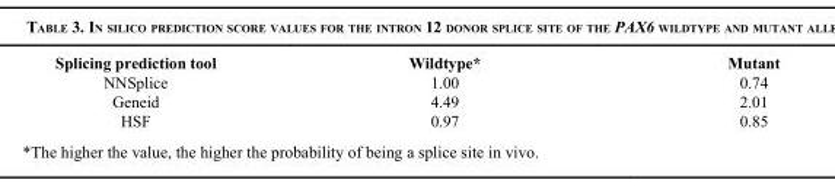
<table><thead><tr><td>Splicing prediction tool</td><td>Wildtype*</td><td>Mutant</td></tr></thead><tbody><tr><td>NNSplice</td><td>1.00</td><td>0.74</td></tr><tr><td>Geneid</td><td>4.49</td><td>2.01</td></tr><tr><td>HSF</td><td>0.97</td><td>0.85</td></tr></tbody></table>